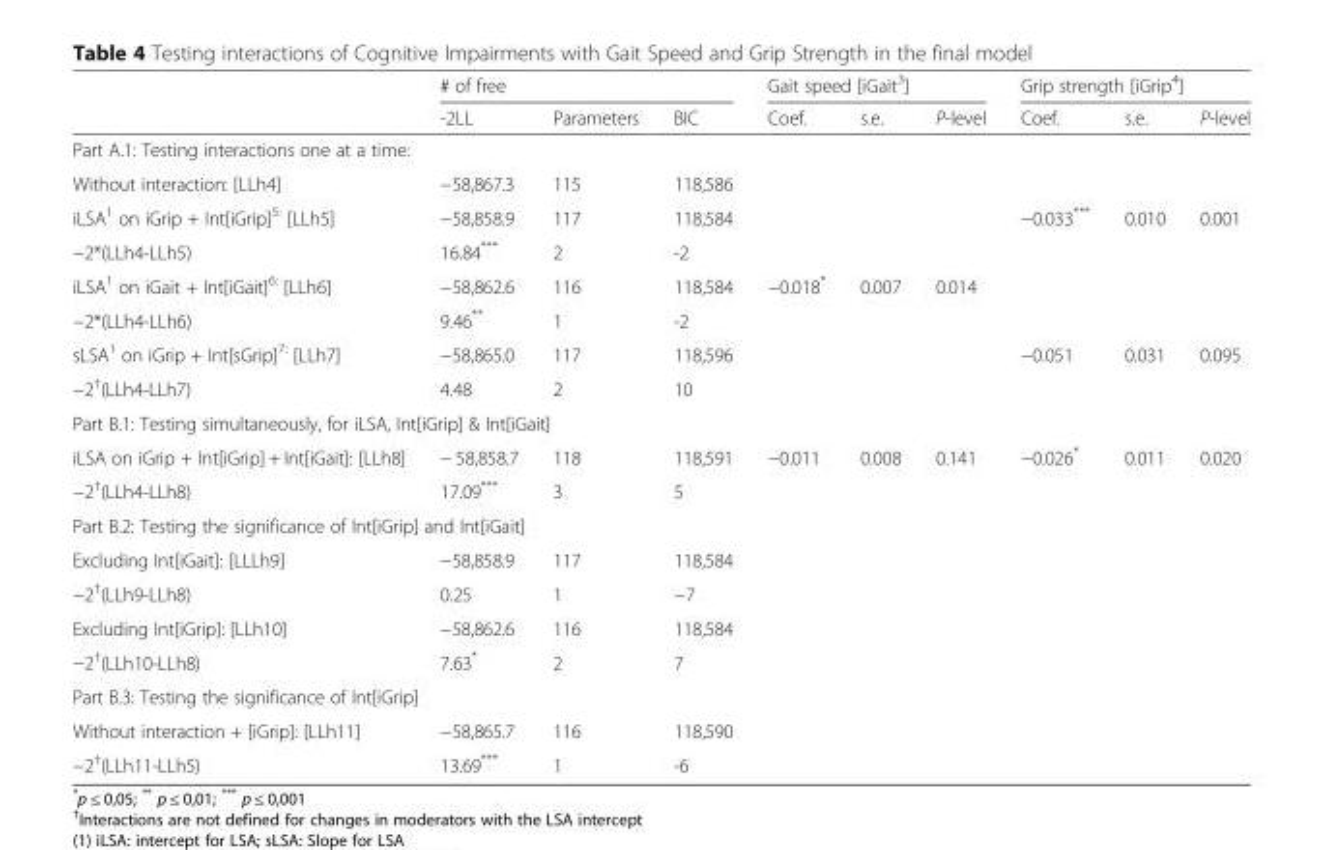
<table><thead><tr><td rowspan="2"></td><td colspan="3"># of free</td><td colspan="3">Gait speed [iGait<sup>3</sup>]</td><td colspan="3">Grip strength [iGrip<sup>4</sup>]</td></tr><tr><td>-2LL</td><td>Parameters</td><td>BIC</td><td>Coef.</td><td>s.e.</td><td>P-level</td><td>Coef.</td><td>s.e.</td><td>P-level</td></tr></thead><tbody><tr><td colspan="10">Part A.1: Testing interactions one at a time:</td></tr><tr><td>Without interaction: [LLh4]</td><td>−58,867.3</td><td>115</td><td>118,586</td><td></td><td></td><td></td><td></td><td></td><td></td></tr><tr><td>iLSA<sup>1</sup> on iGrip + Int[iGrip]<sup>5:</sup> [LLh5]</td><td>−58,858.9</td><td>117</td><td>118,584</td><td></td><td></td><td></td><td>−0.033***</td><td>0.010</td><td>0.001</td></tr><tr><td>−2*(LLh4-LLh5)</td><td>16.84***</td><td>2</td><td>-2</td><td></td><td></td><td></td><td></td><td></td><td></td></tr><tr><td>iLSA<sup>1</sup> on iGait + Int[iGait]<sup>6:</sup> [LLh6]</td><td>−58,862.6</td><td>116</td><td>118,584</td><td>−0.018*</td><td>0.007</td><td>0.014</td><td></td><td></td><td></td></tr><tr><td>−2*(LLh4-LLh6)</td><td>9.46**</td><td>1</td><td>-2</td><td></td><td></td><td></td><td></td><td></td><td></td></tr><tr><td>sLSA<sup>1</sup> on iGrip + Int[sGrip]<sup>7:</sup> [LLh7]</td><td>−58,865.0</td><td>117</td><td>118,596</td><td></td><td></td><td></td><td>−0.051</td><td>0.031</td><td>0.095</td></tr><tr><td>−2<sup>†</sup>(LLh4-LLh7)</td><td>4.48</td><td>2</td><td>10</td><td></td><td></td><td></td><td></td><td></td><td></td></tr><tr><td colspan="10">Part B.1: Testing simultaneously, for iLSA, Int[iGrip] &amp; Int[iGait]</td></tr><tr><td>iLSA on iGrip + Int[iGrip] + Int[iGait]: [LLh8]</td><td>− 58,858.7</td><td>118</td><td>118,591</td><td>−0.011</td><td>0.008</td><td>0.141</td><td>−0.026*</td><td>0.011</td><td>0.020</td></tr><tr><td>−2<sup>†</sup>(LLh4-LLh8)</td><td>17.09***</td><td>3</td><td>5</td><td></td><td></td><td></td><td></td><td></td><td></td></tr><tr><td colspan="10">Part B.2: Testing the significance of Int[iGrip] and Int[iGait]</td></tr><tr><td>Excluding Int[iGait]: [LLLh9]</td><td>−58,858.9</td><td>117</td><td>118,584</td><td></td><td></td><td></td><td></td><td></td><td></td></tr><tr><td>−2<sup>†</sup>(LLh9-LLh8)</td><td>0.25</td><td>1</td><td>−7</td><td></td><td></td><td></td><td></td><td></td><td></td></tr><tr><td>Excluding Int[iGrip]: [LLh10]</td><td>−58,862.6</td><td>116</td><td>118,584</td><td></td><td></td><td></td><td></td><td></td><td></td></tr><tr><td>−2<sup>†</sup>(LLh10-LLh8)</td><td>7.63*</td><td>2</td><td>7</td><td></td><td></td><td></td><td></td><td></td><td></td></tr><tr><td colspan="10">Part B.3: Testing the significance of Int[iGrip]</td></tr><tr><td>Without interaction + [iGrip]: [LLh11]</td><td>−58,865.7</td><td>116</td><td>118,590</td><td></td><td></td><td></td><td></td><td></td><td></td></tr><tr><td>−2<sup>†</sup>(LLh11-LLh5)</td><td>13.69***</td><td>1</td><td>-6</td><td></td><td></td><td></td><td></td><td></td><td></td></tr></tbody></table>